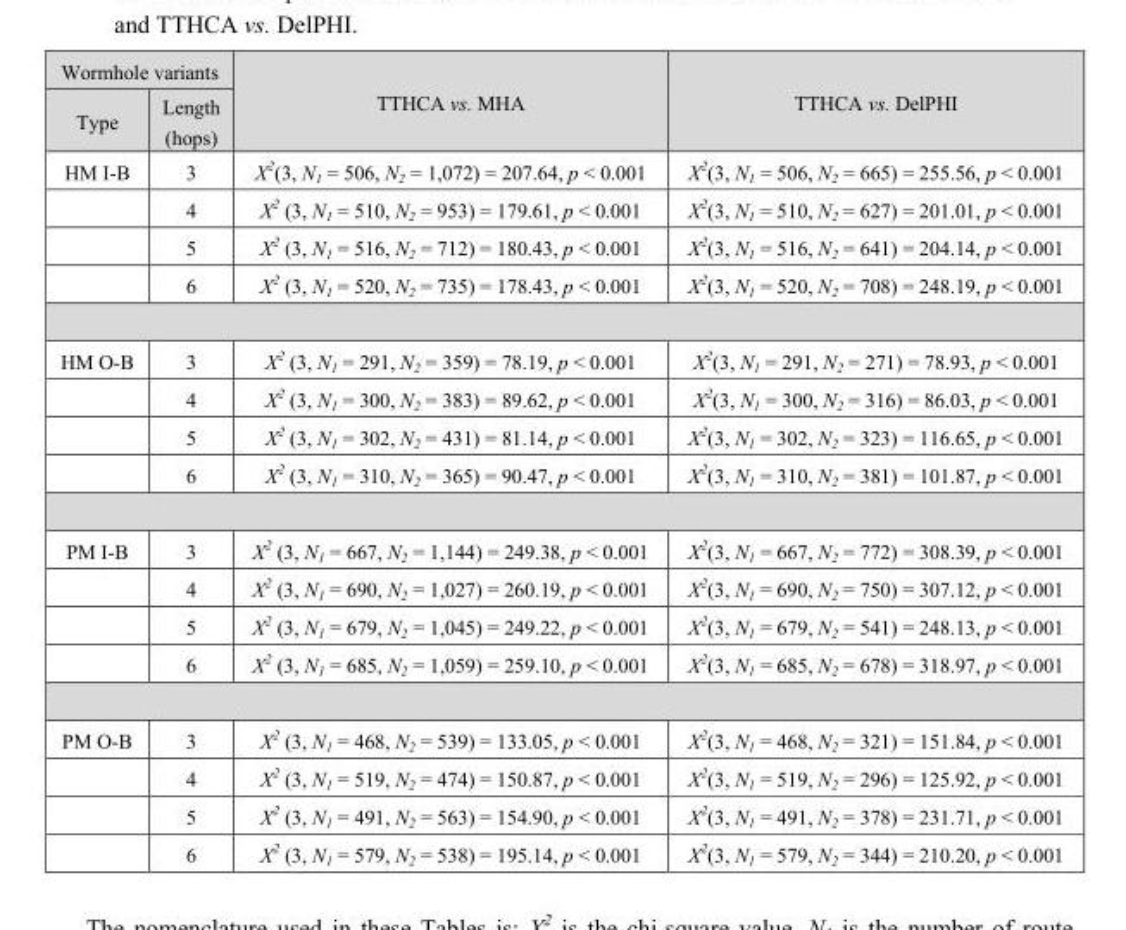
<table><thead><tr><td colspan="2">Wormhole variants</td><td rowspan="2">TTHCA vs. MHA</td><td rowspan="2">TTHCA vs. DelPHI</td></tr><tr><td>Type</td><td>Length (hops)</td></tr></thead><tbody><tr><td rowspan="4">HM I-B</td><td>3</td><td>Χ2(3, N1 = 506, N2 = 1,072) = 207.64, p &lt; 0.001</td><td>Χ2(3, N1 = 506, N2 = 665) = 255.56, p &lt; 0.001</td></tr><tr><td>4</td><td>Χ2 (3, N1 = 510, N2 = 953) = 179.61, p &lt; 0.001</td><td>Χ2(3, N1 = 510, N2 = 627) = 201.01, p &lt; 0.001</td></tr><tr><td>5</td><td>Χ2 (3, N1 = 516, N2 = 712) = 180.43, p &lt; 0.001</td><td>Χ2(3, N1 = 516, N2 = 641) = 204.14, p &lt; 0.001</td></tr><tr><td>6</td><td>Χ2 (3, N1 = 520, N2 = 735) = 178.43, p &lt; 0.001</td><td>Χ2(3, N1 = 520, N2 = 708) = 248.19, p &lt; 0.001</td></tr><tr><td rowspan="4">HM O-B</td><td>3</td><td>Χ2 (3, N1 = 291, N2 = 359) = 78.19, p &lt; 0.001</td><td>Χ2(3, N1 = 291, N2 = 271) = 78.93, p &lt; 0.001</td></tr><tr><td>4</td><td>Χ2 (3, N1 = 300, N2 = 383) = 89.62, p &lt; 0.001</td><td>Χ2(3, N1 = 300, N2 = 316) = 86.03, p &lt; 0.001</td></tr><tr><td>5</td><td>Χ2 (3, N1 = 302, N2 = 431) = 81.14, p &lt; 0.001</td><td>Χ2(3, N1 = 302, N2 = 323) = 116.65, p &lt; 0.001</td></tr><tr><td>6</td><td>Χ2 (3, N1 = 310, N2 = 365) = 90.47, p &lt; 0.001</td><td>Χ2(3, N1 = 310, N2 = 381) = 101.87, p &lt; 0.001</td></tr><tr><td rowspan="4">PM I-B</td><td>3</td><td>Χ2 (3, N1 = 667, N2 = 1,144) = 249.38, p &lt; 0.001</td><td>Χ2(3, N1 = 667, N2 = 772) = 308.39, p &lt; 0.001</td></tr><tr><td>4</td><td>Χ2 (3, N1 = 690, N2 = 1,027) = 260.19, p &lt; 0.001</td><td>Χ2(3, N1 = 690, N2 = 750) = 307.12, p &lt; 0.001</td></tr><tr><td>5</td><td>Χ2 (3, N1 = 679, N2 = 1,045) = 249.22, p &lt; 0.001</td><td>Χ2(3, N1 = 679, N2 = 541) = 248.13, p &lt; 0.001</td></tr><tr><td>6</td><td>Χ2 (3, N1 = 685, N2 = 1,059) = 259.10, p &lt; 0.001</td><td>Χ2(3, N1 = 685, N2 = 678) = 318.97, p &lt; 0.001</td></tr><tr><td rowspan="4">PM O-B</td><td>3</td><td>Χ2 (3, N1 = 468, N2 = 539) = 133.05, p &lt; 0.001</td><td>Χ2(3, N1 = 468, N2 = 321) = 151.84, p &lt; 0.001</td></tr><tr><td>4</td><td>Χ2 (3, N1 = 519, N2 = 474) = 150.87, p &lt; 0.001</td><td>Χ2(3, N1 = 519, N2 = 296) = 125.92, p &lt; 0.001</td></tr><tr><td>5</td><td>Χ2 (3, N1 = 491, N2 = 563) = 154.90, p &lt; 0.001</td><td>Χ2(3, N1 = 491, N2 = 378) = 231.71, p &lt; 0.001</td></tr><tr><td>6</td><td>Χ2 (3, N1 = 579, N2 = 538) = 195.14, p &lt; 0.001</td><td>Χ2(3, N1 = 579, N2 = 344) = 210.20, p &lt; 0.001</td></tr></tbody></table>